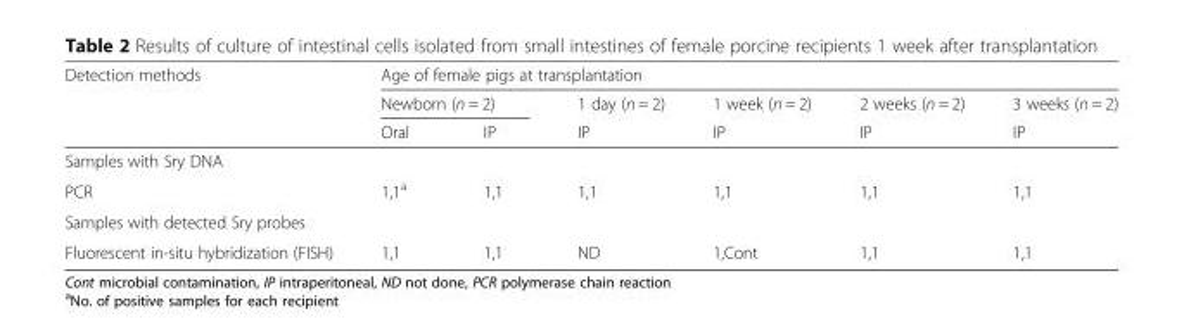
<table><thead><tr><td rowspan="3">Detection methods</td><td colspan="6">Age of female pigs at transplantation</td></tr><tr><td colspan="2">Newborn (n = 2)</td><td rowspan="2">1 day (n = 2) IP</td><td rowspan="2">1 week (n = 2) IP</td><td rowspan="2">2 weeks (n = 2) IP</td><td rowspan="2">3 weeks (n = 2) IP</td></tr><tr><td>Oral</td><td>IP</td></tr></thead><tbody><tr><td colspan="7">Samples with Sry DNA</td></tr><tr><td>PCR</td><td>1,1<sup>a</sup></td><td>1,1</td><td>1,1</td><td>1,1</td><td>1,1</td><td>1,1</td></tr><tr><td colspan="7">Samples with detected Sry probes</td></tr><tr><td>Fluorescent in-situ hybridization (FISH)</td><td>1,1</td><td>1,1</td><td>ND</td><td>1,Cont</td><td>1,1</td><td>1,1</td></tr></tbody></table>